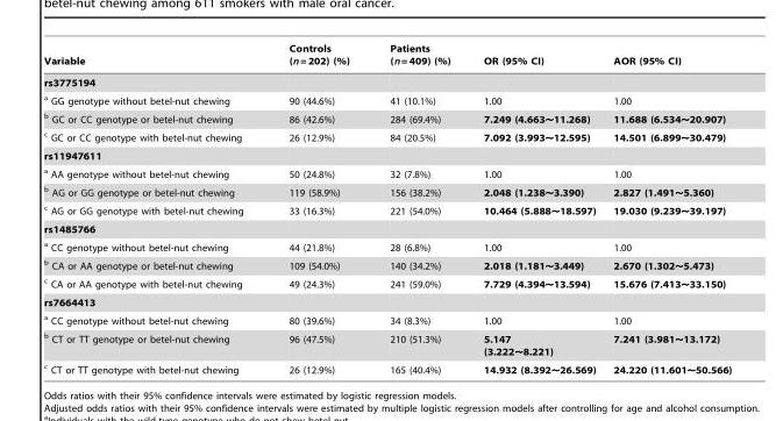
<table><thead><tr><td>Variable</td><td>Controls (n = 202) (%)</td><td>Patients (n = 409) (%)</td><td>OR (95% CI)</td><td>AOR (95% CI)</td></tr></thead><tbody><tr><td colspan="5">rs3775194</td></tr><tr><td>a GG genotype without betel-nut chewing</td><td>90 (44.6%)</td><td>41 (10.1%)</td><td>1.00</td><td>1.00</td></tr><tr><td>b GC or CC genotype or betel-nut chewing</td><td>86 (42.6%)</td><td>284 (69.4%)</td><td>7.249 (4.663∼11.268)</td><td>11.688 (6.534∼20.907)</td></tr><tr><td>c GC or CC genotype with betel-nut chewing</td><td>26 (12.9%)</td><td>84 (20.5%)</td><td>7.092 (3.993∼12.595)</td><td>14.501 (6.899∼30.479)</td></tr><tr><td colspan="5">rs11947611</td></tr><tr><td>a AA genotype without betel-nut chewing</td><td>50 (24.8%)</td><td>32 (7.8%)</td><td>1.00</td><td>1.00</td></tr><tr><td>b AG or GG genotype or betel-nut chewing</td><td>119 (58.9%)</td><td>156 (38.2%)</td><td>2.048 (1.238∼3.390)</td><td>2.827 (1.491∼5.360)</td></tr><tr><td>c AG or GG genotype with betel-nut chewing</td><td>33 (16.3%)</td><td>221 (54.0%)</td><td>10.464 (5.888∼18.597)</td><td>19.030 (9.239∼39.197)</td></tr><tr><td colspan="5">rs1485766</td></tr><tr><td>a CC genotype without betel-nut chewing</td><td>44 (21.8%)</td><td>28 (6.8%)</td><td>1.00</td><td>1.00</td></tr><tr><td>b CA or AA genotype or betel-nut chewing</td><td>109 (54.0%)</td><td>140 (34.2%)</td><td>2.018 (1.181∼3.449)</td><td>2.670 (1.302∼5.473)</td></tr><tr><td>c CA or AA genotype with betel-nut chewing</td><td>49 (24.3%)</td><td>241 (59.0%)</td><td>7.729 (4.394∼13.594)</td><td>15.676 (7.413∼33.150)</td></tr><tr><td colspan="5">rs7664413</td></tr><tr><td>a CC genotype without betel-nut chewing</td><td>80 (39.6%)</td><td>34 (8.3%)</td><td>1.00</td><td>1.00</td></tr><tr><td>b CT or TT genotype or betel-nut chewing</td><td>96 (47.5%)</td><td>210 (51.3%)</td><td>5.147 (3.222∼8.221)</td><td>7.241 (3.981∼13.172)</td></tr><tr><td>c CT or TT genotype with betel-nut chewing</td><td>26 (12.9%)</td><td>165 (40.4%)</td><td>14.932 (8.392∼26.569)</td><td>24.220 (11.601∼50.566)</td></tr></tbody></table>